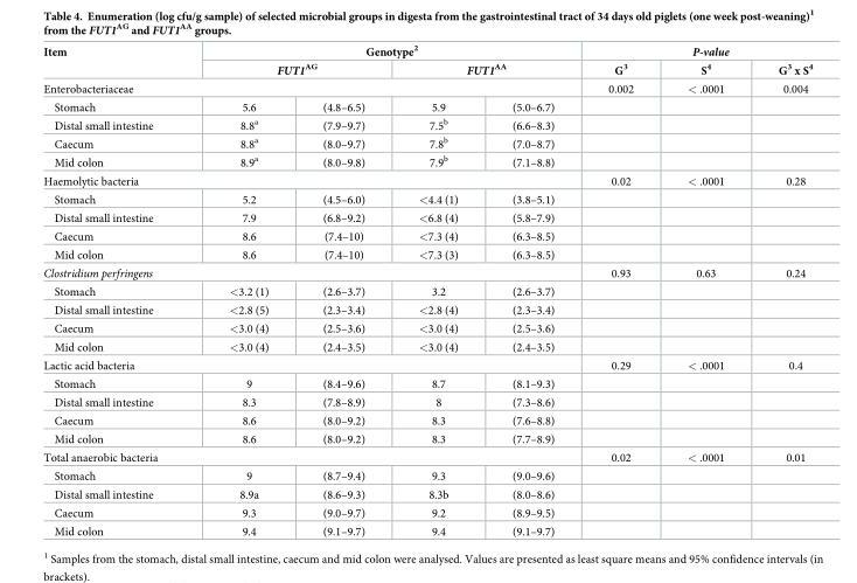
<table><thead><tr><td rowspan="2">Item</td><td colspan="4">Genotype<sup>2</sup></td><td colspan="3">P-value</td></tr><tr><td colspan="2">FUT1<sup>AG</sup></td><td colspan="2">FUT1<sup>AA</sup></td><td rowspan="3">G<sup>3</sup> 0.002</td><td rowspan="3">S<sup>4</sup> &lt; .0001</td><td rowspan="3">G<sup>3</sup> x S<sup>4</sup> 0.004</td></tr><tr><td colspan="5">Enterobacteriaceae</td></tr><tr><td>Stomach</td><td>5.6</td><td>(4.8–6.5)</td><td>5.9</td><td>(5.0–6.7)</td></tr></thead><tbody><tr><td>Distal small intestine</td><td>8.8<sup>a</sup></td><td>(7.9–9.7)</td><td>7.5<sup>b</sup></td><td>(6.6–8.3)</td><td></td><td></td><td></td></tr><tr><td>Caecum</td><td>8.8<sup>a</sup></td><td>(8.0–9.7)</td><td>7.8<sup>b</sup></td><td>(7.0–8.7)</td><td></td><td></td><td></td></tr><tr><td>Mid colon</td><td>8.9<sup>a</sup></td><td>(8.0–9.8)</td><td>7.9<sup>b</sup></td><td>(7.1–8.8)</td><td></td><td></td><td></td></tr><tr><td colspan="5">Haemolytic bacteria</td><td>0.02</td><td>&lt; .0001</td><td>0.28</td></tr><tr><td>Stomach</td><td>5.2</td><td>(4.5–6.0)</td><td>&lt;4.4 (1)</td><td>(3.8–5.1)</td><td></td><td></td><td></td></tr><tr><td>Distal small intestine</td><td>7.9</td><td>(6.8–9.2)</td><td>&lt;6.8 (4)</td><td>(5.8–7.9)</td><td></td><td></td><td></td></tr><tr><td>Caecum</td><td>8.6</td><td>(7.4–10)</td><td>&lt;7.3 (4)</td><td>(6.3–8.5)</td><td></td><td></td><td></td></tr><tr><td>Mid colon</td><td>8.6</td><td>(7.4–10)</td><td>&lt;7.3 (3)</td><td>(6.3–8.5)</td><td></td><td></td><td></td></tr><tr><td colspan="5">Clostridium perfringens</td><td>0.93</td><td>0.63</td><td>0.24</td></tr><tr><td>Stomach</td><td>&lt;3.2 (1)</td><td>(2.6–3.7)</td><td>3.2</td><td>(2.6–3.7)</td><td></td><td></td><td></td></tr><tr><td>Distal small intestine</td><td>&lt;2.8 (5)</td><td>(2.3–3.4)</td><td>&lt;2.8 (4)</td><td>(2.3–3.4)</td><td></td><td></td><td></td></tr><tr><td>Caecum</td><td>&lt;3.0 (4)</td><td>(2.5–3.6)</td><td>&lt;3.0 (4)</td><td>(2.5–3.6)</td><td></td><td></td><td></td></tr><tr><td>Mid colon</td><td>&lt;3.0 (4)</td><td>(2.4–3.5)</td><td>&lt;3.0 (4)</td><td>(2.4–3.5)</td><td></td><td></td><td></td></tr><tr><td colspan="5">Lactic acid bacteria</td><td>0.29</td><td>&lt; .0001</td><td>0.4</td></tr><tr><td>Stomach</td><td>9</td><td>(8.4–9.6)</td><td>8.7</td><td>(8.1–9.3)</td><td></td><td></td><td></td></tr><tr><td>Distal small intestine</td><td>8.3</td><td>(7.8–8.9)</td><td>8</td><td>(7.3–8.6)</td><td></td><td></td><td></td></tr><tr><td>Caecum</td><td>8.6</td><td>(8.0–9.2)</td><td>8.3</td><td>(7.6–8.8)</td><td></td><td></td><td></td></tr><tr><td>Mid colon</td><td>8.6</td><td>(8.0–9.2)</td><td>8.3</td><td>(7.7–8.9)</td><td></td><td></td><td></td></tr><tr><td colspan="5">Total anaerobic bacteria</td><td>0.02</td><td>&lt; .0001</td><td>0.01</td></tr><tr><td>Stomach</td><td>9</td><td>(8.7–9.4)</td><td>9.3</td><td>(9.0–9.6)</td><td></td><td></td><td></td></tr><tr><td>Distal small intestine</td><td>8.9a</td><td>(8.6–9.3)</td><td>8.3b</td><td>(8.0–8.6)</td><td></td><td></td><td></td></tr><tr><td>Caecum</td><td>9.3</td><td>(9.0–9.7)</td><td>9.2</td><td>(8.9–9.5)</td><td></td><td></td><td></td></tr><tr><td>Mid colon</td><td>9.4</td><td>(9.1–9.7)</td><td>9.4</td><td>(9.1–9.7)</td><td></td><td></td><td></td></tr></tbody></table>